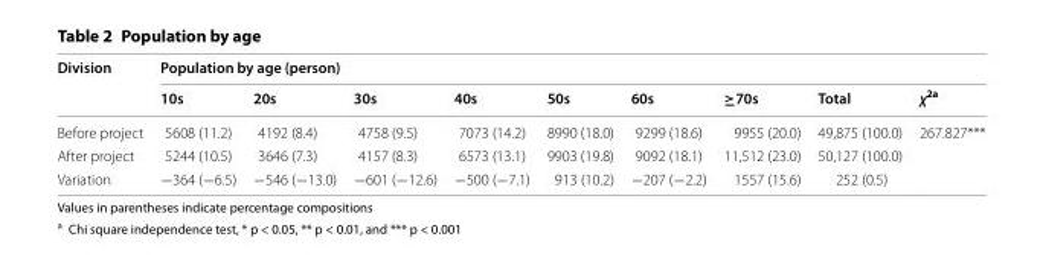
<table><thead><tr><td rowspan="2">Division</td><td colspan="9">Population by age (person)</td></tr><tr><td>10s</td><td>20s</td><td>30s</td><td>40s</td><td>50s</td><td>60s</td><td>≥70s</td><td>Total</td><td>χ<sup>2a</sup></td></tr></thead><tbody><tr><td>Before project</td><td>5608 (11.2)</td><td>4192 (8.4)</td><td>4758 (9.5)</td><td>7073 (14.2)</td><td>8990 (18.0)</td><td>9299 (18.6)</td><td>9955 (20.0)</td><td>49,875 (100.0)</td><td rowspan="2">267.827***</td></tr><tr><td>After project</td><td>5244 (10.5)</td><td>3646 (7.3)</td><td>4157 (8.3)</td><td>6573 (13.1)</td><td>9903 (19.8)</td><td>9092 (18.1)</td><td>11,512 (23.0)</td><td>50,127 (100.0)</td></tr><tr><td>Variation</td><td>−364 (−6.5)</td><td>−546 (−13.0)</td><td>−601 (−12.6)</td><td>−500 (−7.1)</td><td>913 (10.2)</td><td>−207 (−2.2)</td><td>1557 (15.6)</td><td>252 (0.5)</td><td></td></tr></tbody></table>